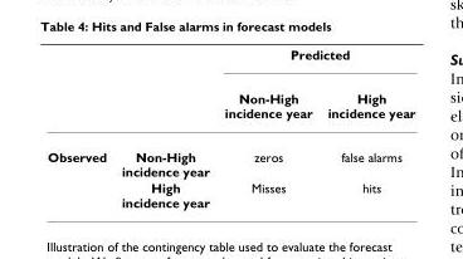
<table><thead><tr><td rowspan="2"></td><td rowspan="2"></td><td colspan="2">Predicted</td></tr><tr><td>Non-High incidence year</td><td>High incidence year</td></tr></thead><tbody><tr><td rowspan="2">Observed</td><td>Non-High incidence year</td><td>zeros</td><td>false alarms</td></tr><tr><td>High incidence year</td><td>Misses</td><td>hits</td></tr></tbody></table>